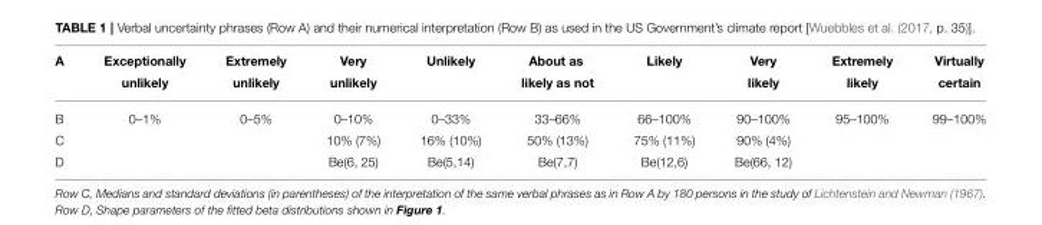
<table><thead><tr><td rowspan="2">A</td><td rowspan="2">Exceptionally unlikely</td><td rowspan="2">Extremely unlikely</td><td rowspan="2">Very unlikely</td><td rowspan="2">Unlikely</td><td rowspan="2">About as likely as not</td><td rowspan="2">Likely</td><td rowspan="2">Very likely</td><td rowspan="2">Extremely likely</td><td rowspan="2">Virtually certain</td></tr><tr></tr></thead><tbody><tr><td>B</td><td>0–1%</td><td>0–5%</td><td>0–10%</td><td>0–33%</td><td>33–66%</td><td>66–100%</td><td>90–100%</td><td>95–100%</td><td>99–100%</td></tr><tr><td>C</td><td></td><td></td><td>10% (7%)</td><td>16% (10%)</td><td>50% (13%)</td><td>75% (11%)</td><td>90% (4%)</td><td></td><td></td></tr><tr><td>D</td><td></td><td></td><td>Be(6, 25)</td><td>Be(5,14)</td><td>Be(7,7)</td><td>Be(12,6)</td><td>Be(66, 12)</td><td></td><td></td></tr></tbody></table>